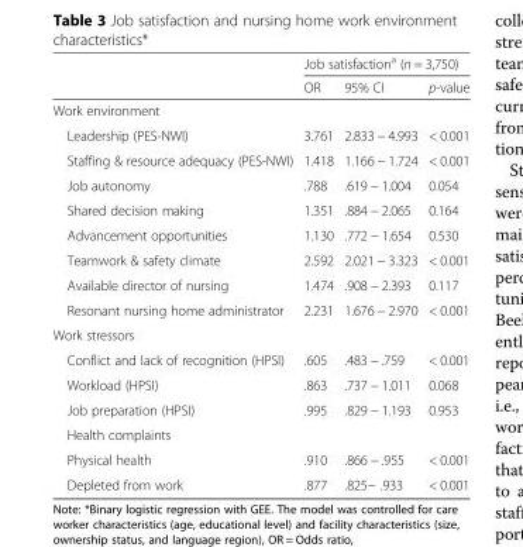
<table><thead><tr><td rowspan="2"></td><td colspan="3">Job satisfaction<sup>a</sup> (n = 3,750)</td></tr><tr><td>OR</td><td>95% CI</td><td>p-value</td></tr></thead><tbody><tr><td colspan="4">Work environment</td></tr><tr><td>Leadership (PES-NWI)</td><td>3.761</td><td>2.833 − 4.993</td><td>&lt; 0.001</td></tr><tr><td>Staffing &amp; resource adequacy (PES-NWI)</td><td>1.418</td><td>1.166 − 1.724</td><td>&lt; 0.001</td></tr><tr><td>Job autonomy</td><td>.788</td><td>.619 − 1.004</td><td>0.054</td></tr><tr><td>Shared decision making</td><td>1.351</td><td>.884 − 2.065</td><td>0.164</td></tr><tr><td>Advancement opportunities</td><td>1.130</td><td>.772 − 1.654</td><td>0.530</td></tr><tr><td>Teamwork &amp; safety climate</td><td>2.592</td><td>2.021 − 3.323</td><td>&lt; 0.001</td></tr><tr><td>Available director of nursing</td><td>1.474</td><td>.908 − 2.393</td><td>0.117</td></tr><tr><td>Resonant nursing home administrator</td><td>2.231</td><td>1.676 − 2.970</td><td>&lt; 0.001</td></tr><tr><td colspan="4">Work stressors</td></tr><tr><td>Conflict and lack of recognition (HPSI)</td><td>.605</td><td>.483 − .759</td><td>&lt; 0.001</td></tr><tr><td>Workload (HPSI)</td><td>.863</td><td>.737 − 1.011</td><td>0.068</td></tr><tr><td>Job preparation (HPSI)</td><td>.995</td><td>.829 − 1.193</td><td>0.953</td></tr><tr><td colspan="4">Health complaints</td></tr><tr><td>Physical health</td><td>.910</td><td>.866 − .955</td><td>&lt; 0.001</td></tr><tr><td>Depleted from work</td><td>.877</td><td>.825− .933</td><td>&lt; 0.001</td></tr></tbody></table>